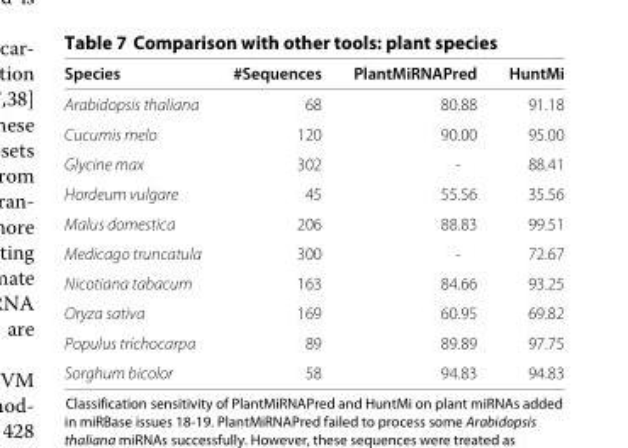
<table><thead><tr><td>Species</td><td>#Sequences</td><td>PlantMiRNAPred</td><td>HuntMi</td></tr></thead><tbody><tr><td>Arabidopsis thaliana</td><td>68</td><td>80.88</td><td>91.18</td></tr><tr><td>Cucumis melo</td><td>120</td><td>90.00</td><td>95.00</td></tr><tr><td>Glycine max</td><td>302</td><td>-</td><td>88.41</td></tr><tr><td>Hordeum vulgare</td><td>45</td><td>55.56</td><td>35.56</td></tr><tr><td>Malus domestica</td><td>206</td><td>88.83</td><td>99.51</td></tr><tr><td>Medicago truncatula</td><td>300</td><td>-</td><td>72.67</td></tr><tr><td>Nicotiana tabacum</td><td>163</td><td>84.66</td><td>93.25</td></tr><tr><td>Oryza sativa</td><td>169</td><td>60.95</td><td>69.82</td></tr><tr><td>Populus trichocarpa</td><td>89</td><td>89.89</td><td>97.75</td></tr><tr><td>Sorghum bicolor</td><td>58</td><td>94.83</td><td>94.83</td></tr></tbody></table>